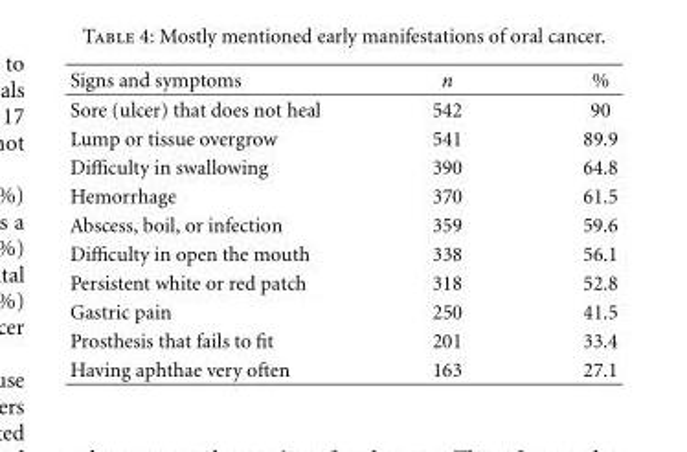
<table><thead><tr><td>Signs and symptoms</td><td>n</td><td>%</td></tr></thead><tbody><tr><td>Sore (ulcer) that does not heal</td><td>542</td><td>90</td></tr><tr><td>Lump or tissue overgrow</td><td>541</td><td>89.9</td></tr><tr><td>Difficulty in swallowing</td><td>390</td><td>64.8</td></tr><tr><td>Hemorrhage</td><td>370</td><td>61.5</td></tr><tr><td>Abscess, boil, or infection</td><td>359</td><td>59.6</td></tr><tr><td>Difficulty in open the mouth</td><td>338</td><td>56.1</td></tr><tr><td>Persistent white or red patch</td><td>318</td><td>52.8</td></tr><tr><td>Gastric pain</td><td>250</td><td>41.5</td></tr><tr><td>Prosthesis that fails to fit</td><td>201</td><td>33.4</td></tr><tr><td>Having aphthae very often</td><td>163</td><td>27.1</td></tr></tbody></table>